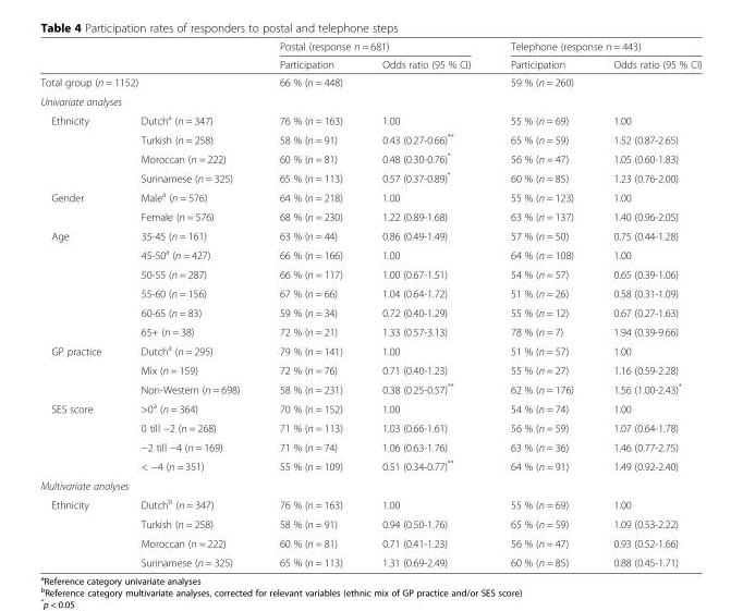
<table><thead><tr><td rowspan="2"></td><td rowspan="2"></td><td colspan="2">Postal (response n = 681)</td><td colspan="2">Telephone (response n = 443)</td></tr><tr><td>Participation</td><td>Odds ratio (95 % CI)</td><td>Participation</td><td>Odds ratio (95 % CI)</td></tr></thead><tbody><tr><td colspan="2">Total group (n = 1152)</td><td>66 % (n = 448)</td><td></td><td>59 % (n = 260)</td><td></td></tr><tr><td colspan="6">Univariate analyses</td></tr><tr><td rowspan="4">Ethnicity</td><td>Dutch<sup>a</sup> (n = 347)</td><td>76 % (n = 163)</td><td>1.00</td><td>55 % (n = 69)</td><td>1.00</td></tr><tr><td>Turkish (n = 258)</td><td>58 % (n = 91)</td><td>0.43 (0.27-0.66)**</td><td>65 % (n = 59)</td><td>1.52 (0.87-2.65)</td></tr><tr><td>Moroccan (n = 222)</td><td>60 % (n = 81)</td><td>0.48 (0.30-0.76)*</td><td>56 % (n = 47)</td><td>1.05 (0.60-1.83)</td></tr><tr><td>Surinamese (n = 325)</td><td>65 % (n = 113)</td><td>0.57 (0.37-0.89)*</td><td>60 % (n = 85)</td><td>1.23 (0.76-2.00)</td></tr><tr><td rowspan="2">Gender</td><td>Male<sup>a</sup> (n = 576)</td><td>64 % (n = 218)</td><td>1.00</td><td>55 % (n = 123)</td><td>1.00</td></tr><tr><td>Female (n = 576)</td><td>68 % (n = 230)</td><td>1.22 (0.89-1.68)</td><td>63 % (n = 137)</td><td>1.40 (0.96-2.05)</td></tr><tr><td rowspan="6">Age</td><td>35-45 (n = 161)</td><td>63 % (n = 44)</td><td>0.86 (0.49-1.49)</td><td>57 % (n = 50)</td><td>0.75 (0.44-1.28)</td></tr><tr><td>45-50<sup>a</sup> (n = 427)</td><td>66 % (n = 166)</td><td>1.00</td><td>64 % (n = 108)</td><td>1.00</td></tr><tr><td>50-55 (n = 287)</td><td>66 % (n = 117)</td><td>1.00 (0.67-1.51)</td><td>54 % (n = 57)</td><td>0.65 (0.39-1.06)</td></tr><tr><td>55-60 (n = 156)</td><td>67 % (n = 66)</td><td>1.04 (0.64-1.72)</td><td>51 % (n = 26)</td><td>0.58 (0.31-1.09)</td></tr><tr><td>60-65 (n = 83)</td><td>59 % (n = 34)</td><td>0.72 (0.40-1.29)</td><td>55 % (n = 12)</td><td>0.67 (0.27-1.63)</td></tr><tr><td>65+ (n = 38)</td><td>72 % (n = 21)</td><td>1.33 (0.57-3.13)</td><td>78 % (n = 7)</td><td>1.94 (0.39-9.66)</td></tr><tr><td rowspan="3">GP practice</td><td>Dutch<sup>a</sup> (n = 295)</td><td>79 % (n = 141)</td><td>1.00</td><td>51 % (n = 57)</td><td>1.00</td></tr><tr><td>Mix (n = 159)</td><td>72 % (n = 76)</td><td>0.71 (0.40-1.23)</td><td>55 % (n = 27)</td><td>1.16 (0.59-2.28)</td></tr><tr><td>Non-Western (n = 698)</td><td>58 % (n = 231)</td><td>0.38 (0.25-0.57)**</td><td>62 % (n = 176)</td><td>1.56 (1.00-2.43)*</td></tr><tr><td rowspan="4">SES score</td><td>&gt;0<sup>a</sup> (n = 364)</td><td>70 % (n = 152)</td><td>1.00</td><td>54 % (n = 74)</td><td>1.00</td></tr><tr><td>0 till −2 (n = 268)</td><td>71 % (n = 113)</td><td>1.03 (0.66-1.61)</td><td>56 % (n = 59)</td><td>1.07 (0.64-1.78)</td></tr><tr><td>−2 till −4 (n = 169)</td><td>71 % (n = 74)</td><td>1.06 (0.63-1.76)</td><td>63 % (n = 36)</td><td>1.46 (0.77-2.75)</td></tr><tr><td>&lt; −4 (n = 351)</td><td>55 % (n = 109)</td><td>0.51 (0.34-0.77)**</td><td>64 % (n = 91)</td><td>1.49 (0.92-2.40)</td></tr><tr><td colspan="6">Multivariate analyses</td></tr><tr><td rowspan="4">Ethnicity</td><td>Dutch<sup>b</sup> (n = 347)</td><td>76 % (n = 163)</td><td>1.00</td><td>55 % (n = 69)</td><td>1.00</td></tr><tr><td>Turkish (n = 258)</td><td>58 % (n = 91)</td><td>0.94 (0.50-1.76)</td><td>65 % (n = 59)</td><td>1.09 (0.53-2.22)</td></tr><tr><td>Moroccan (n = 222)</td><td>60 % (n = 81)</td><td>0.71 (0.41-1.23)</td><td>56 % (n = 47)</td><td>0.93 (0.52-1.66)</td></tr><tr><td>Surinamese (n = 325)</td><td>65 % (n = 113)</td><td>1.31 (0.69-2.49)</td><td>60 % (n = 85)</td><td>0.88 (0.45-1.71)</td></tr></tbody></table>